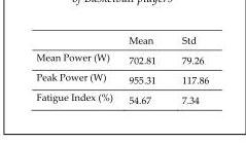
<table><thead><tr><td></td><td>Mean</td><td>Std</td></tr></thead><tbody><tr><td>Mean Power (W)</td><td>702.81</td><td>79.26</td></tr><tr><td>Peak Power (W)</td><td>955.31</td><td>117.86</td></tr><tr><td>Fatigue Index (%)</td><td>54.67</td><td>7.34</td></tr></tbody></table>